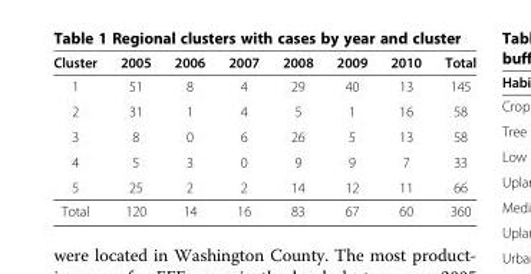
<table><thead><tr><td>Cluster</td><td>2005</td><td>2006</td><td>2007</td><td>2008</td><td>2009</td><td>2010</td><td>Total</td></tr></thead><tbody><tr><td>1</td><td>51</td><td>8</td><td>4</td><td>29</td><td>40</td><td>13</td><td>145</td></tr><tr><td>2</td><td>31</td><td>1</td><td>4</td><td>5</td><td>1</td><td>16</td><td>58</td></tr><tr><td>3</td><td>8</td><td>0</td><td>6</td><td>26</td><td>5</td><td>13</td><td>58</td></tr><tr><td>4</td><td>5</td><td>3</td><td>0</td><td>9</td><td>9</td><td>7</td><td>33</td></tr><tr><td>5</td><td>25</td><td>2</td><td>2</td><td>14</td><td>12</td><td>11</td><td>66</td></tr><tr><td>Total</td><td>120</td><td>14</td><td>16</td><td>83</td><td>67</td><td>60</td><td>360</td></tr></tbody></table>